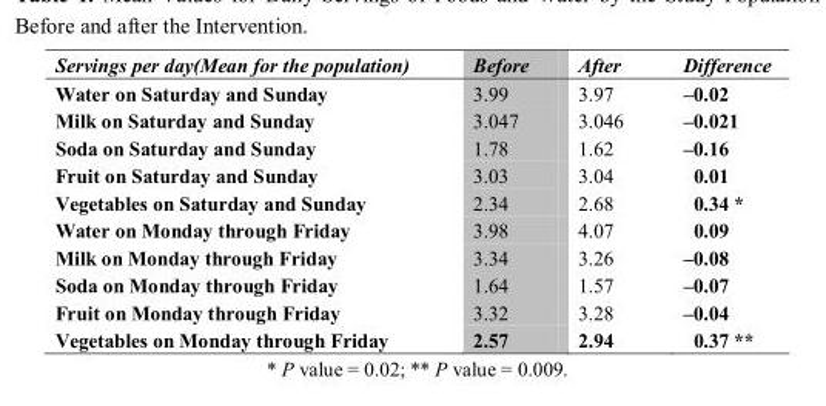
<table><thead><tr><td>Servings per day(Mean for the population)</td><td>Before</td><td>After</td><td>Difference</td></tr></thead><tbody><tr><td>Water on Saturday and Sunday</td><td>3.99</td><td>3.97</td><td>–0.02</td></tr><tr><td>Milk on Saturday and Sunday</td><td>3.047</td><td>3.046</td><td>–0.021</td></tr><tr><td>Soda on Saturday and Sunday</td><td>1.78</td><td>1.62</td><td>–0.16</td></tr><tr><td>Fruit on Saturday and Sunday</td><td>3.03</td><td>3.04</td><td>0.01</td></tr><tr><td>Vegetables on Saturday and Sunday</td><td>2.34</td><td>2.68</td><td>0.34 *</td></tr><tr><td>Water on Monday through Friday</td><td>3.98</td><td>4.07</td><td>0.09</td></tr><tr><td>Milk on Monday through Friday</td><td>3.34</td><td>3.26</td><td>–0.08</td></tr><tr><td>Soda on Monday through Friday</td><td>1.64</td><td>1.57</td><td>–0.07</td></tr><tr><td>Fruit on Monday through Friday</td><td>3.32</td><td>3.28</td><td>–0.04</td></tr><tr><td>Vegetables on Monday through Friday</td><td>2.57</td><td>2.94</td><td>0.37 **</td></tr></tbody></table>